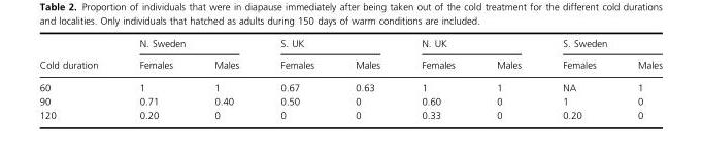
<table><thead><tr><td rowspan="2">Cold duration</td><td colspan="2">N. Sweden</td><td colspan="2">S. UK</td><td colspan="2">N. UK</td><td colspan="2">S. Sweden</td></tr><tr><td>Females</td><td>Males</td><td>Females</td><td>Males</td><td>Females</td><td>Males</td><td>Females</td><td>Males</td></tr></thead><tbody><tr><td>60</td><td>1</td><td>1</td><td>0.67</td><td>0.63</td><td>1</td><td>1</td><td>NA</td><td>1</td></tr><tr><td>90</td><td>0.71</td><td>0.40</td><td>0.50</td><td>0</td><td>0.60</td><td>0</td><td>1</td><td>0</td></tr><tr><td>120</td><td>0.20</td><td>0</td><td>0</td><td>0</td><td>0.33</td><td>0</td><td>0.20</td><td>0</td></tr></tbody></table>